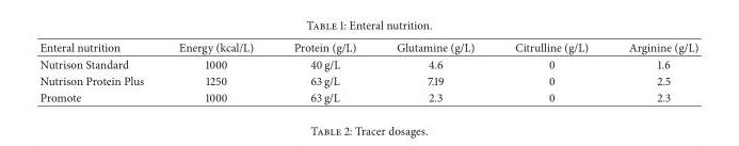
<table><thead><tr><td>Enteral nutrition</td><td>Energy (kcal/L)</td><td>Protein (g/L)</td><td>Glutamine (g/L)</td><td>Citrulline (g/L)</td><td>Arginine (g/L)</td></tr></thead><tbody><tr><td>Nutrison Standard</td><td>1000</td><td>40 g/L</td><td>4.6</td><td>0</td><td>1.6</td></tr><tr><td>Nutrison Protein Plus</td><td>1250</td><td>63 g/L</td><td>7.19</td><td>0</td><td>2.5</td></tr><tr><td>Promote</td><td>1000</td><td>63 g/L</td><td>2.3</td><td>0</td><td>2.3</td></tr></tbody></table>